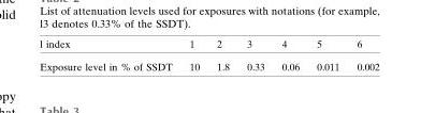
<table><thead><tr><td>l index</td><td>1</td><td>2</td><td>3</td><td>4</td><td>5</td><td>6</td></tr></thead><tbody><tr><td>Exposure level in % of SSDT</td><td>10</td><td>1.8</td><td>0.33</td><td>0.06</td><td>0.011</td><td>0.002</td></tr></tbody></table>